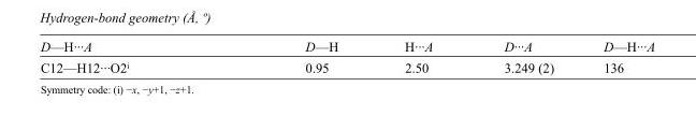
<table><tbody><tr><td>D—H···A</td><td>D—H</td><td>H···A</td><td>D···A</td><td>D—H···A</td></tr><tr><td>C12—H12···O2<sup>i</sup></td><td>0.95</td><td>2.50</td><td>3.249 (2)</td><td>136</td></tr></tbody></table>